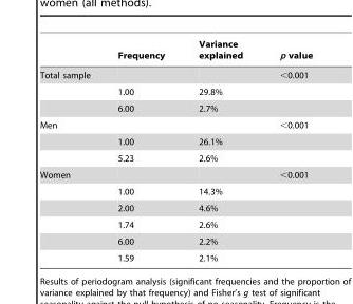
<table><thead><tr><td></td><td>Frequency</td><td>Variance explained</td><td>p value</td></tr></thead><tbody><tr><td rowspan="3">Total sample</td><td></td><td></td><td>&lt;0.001</td></tr><tr><td>1.00</td><td>29.8%</td><td></td></tr><tr><td>6.00</td><td>2.7%</td><td></td></tr><tr><td rowspan="3">Men</td><td></td><td></td><td>&lt;0.001</td></tr><tr><td>1.00</td><td>26.1%</td><td></td></tr><tr><td>5.23</td><td>2.6%</td><td></td></tr><tr><td rowspan="6">Women</td><td></td><td></td><td>&lt;0.001</td></tr><tr><td>1.00</td><td>14.3%</td><td></td></tr><tr><td>2.00</td><td>4.6%</td><td></td></tr><tr><td>1.74</td><td>2.6%</td><td></td></tr><tr><td>6.00</td><td>2.2%</td><td></td></tr><tr><td>1.59</td><td>2.1%</td><td></td></tr></tbody></table>